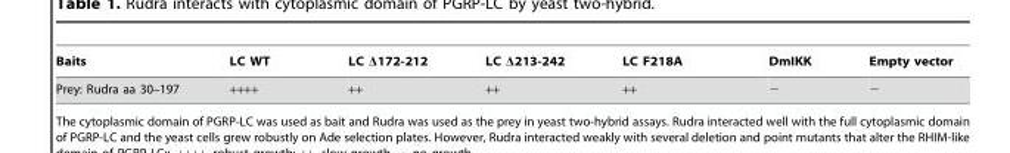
<table><thead><tr><td>Baits</td><td>LC WT</td><td>LC Δ172-212</td><td>LC Δ213-242</td><td>LC F218A</td><td>DmIKK</td><td>Empty vector</td></tr></thead><tbody><tr><td>Prey: Rudra aa 30–197</td><td>++++</td><td>++</td><td>++</td><td>++</td><td>−</td><td>−</td></tr></tbody></table>